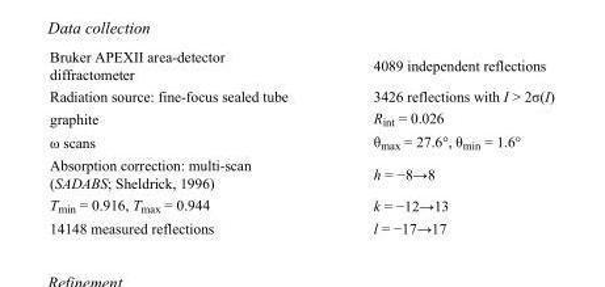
<table><tbody><tr><td>Bruker APEXII area-detector diffractometer</td><td>4089 independent reflections</td></tr><tr><td>Radiation source: fine-focus sealed tube</td><td>3426 reflections with I &gt; 2σ(I)</td></tr><tr><td>graphite</td><td>R<sub>int</sub> = 0.026</td></tr><tr><td>ω scans</td><td>θ<sub>max</sub> = 27.6°, θ<sub>min</sub> = 1.6°</td></tr><tr><td>Absorption correction: multi-scan (SADABS; Sheldrick, 1996)</td><td>h = −8→8</td></tr><tr><td>T<sub>min</sub> = 0.916, T<sub>max</sub> = 0.944</td><td>k = −12→13</td></tr><tr><td>14148 measured reflections</td><td>l = −17→17</td></tr></tbody></table>